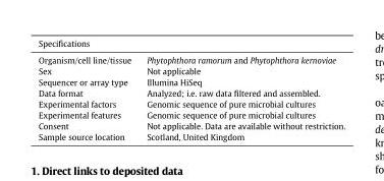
<table><tbody><tr><td colspan="2">Specifications</td></tr><tr><td>Organism/cell line/tissue</td><td>Phytophthora ramorum and Phytophthora kernoviae</td></tr><tr><td>Sex</td><td>Not applicable</td></tr><tr><td>Sequencer or array type</td><td>Illumina HiSeq</td></tr><tr><td>Data format</td><td>Analyzed; i.e. raw data filtered and assembled.</td></tr><tr><td>Experimental factors</td><td>Genomic sequence of pure microbial cultures</td></tr><tr><td>Experimental features</td><td>Genomic sequence of pure microbial cultures</td></tr><tr><td>Consent</td><td>Not applicable. Data are available without restriction.</td></tr><tr><td>Sample source location</td><td>Scotland, United Kingdom</td></tr></tbody></table>